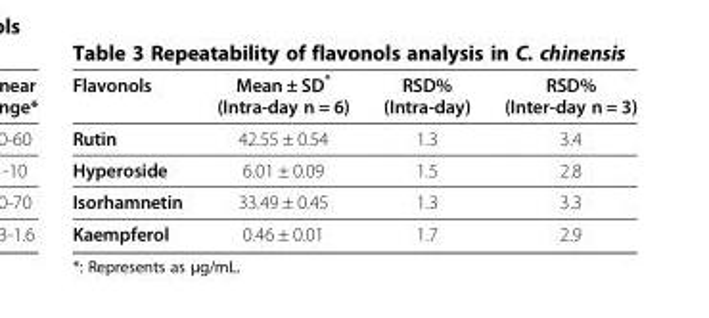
<table><thead><tr><td>Flavonols</td><td>Mean ± SD* (Intra-day n = 6)</td><td>RSD% (Intra-day)</td><td>RSD% (Inter-day n = 3)</td></tr></thead><tbody><tr><td>Rutin</td><td>42.55 ± 0.54</td><td>1.3</td><td>3.4</td></tr><tr><td>Hyperoside</td><td>6.01 ± 0.09</td><td>1.5</td><td>2.8</td></tr><tr><td>Isorhamnetin</td><td>33.49 ± 0.45</td><td>1.3</td><td>3.3</td></tr><tr><td>Kaempferol</td><td>0.46 ± 0.01</td><td>1.7</td><td>2.9</td></tr></tbody></table>